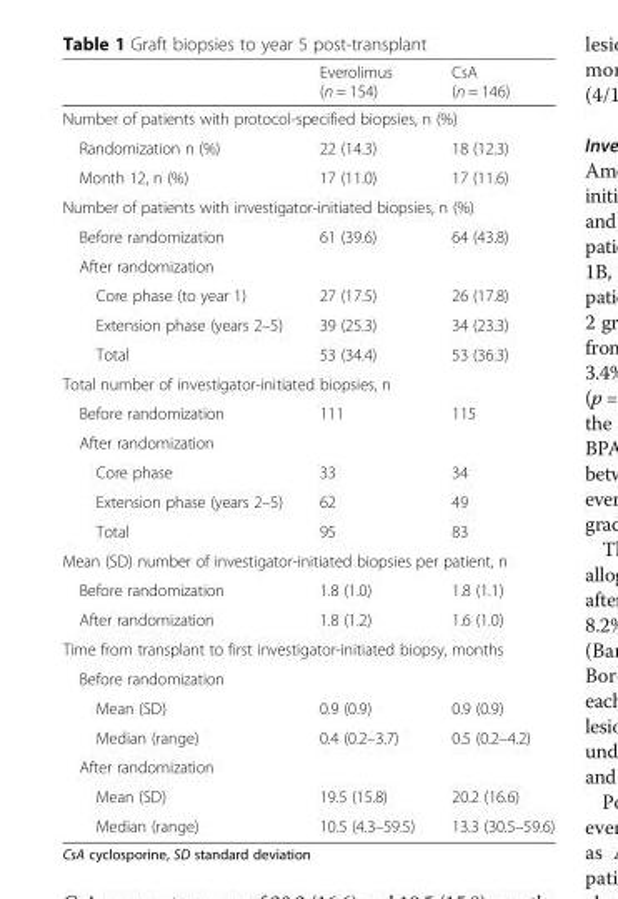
<table><thead><tr><td></td><td>Everolimus (n = 154)</td><td>CsA (n = 146)</td></tr></thead><tbody><tr><td colspan="3">Number of patients with protocol-specified biopsies, n (%)</td></tr><tr><td>Randomization n (%)</td><td>22 (14.3)</td><td>18 (12.3)</td></tr><tr><td>Month 12, n (%)</td><td>17 (11.0)</td><td>17 (11.6)</td></tr><tr><td colspan="3">Number of patients with investigator-initiated biopsies, n (%)</td></tr><tr><td>Before randomization</td><td>61 (39.6)</td><td>64 (43.8)</td></tr><tr><td colspan="3">After randomization</td></tr><tr><td>Core phase (to year 1)</td><td>27 (17.5)</td><td>26 (17.8)</td></tr><tr><td>Extension phase (years 2–5)</td><td>39 (25.3)</td><td>34 (23.3)</td></tr><tr><td>Total</td><td>53 (34.4)</td><td>53 (36.3)</td></tr><tr><td colspan="3">Total number of investigator-initiated biopsies, n</td></tr><tr><td>Before randomization</td><td>111</td><td>115</td></tr><tr><td colspan="3">After randomization</td></tr><tr><td>Core phase</td><td>33</td><td>34</td></tr><tr><td>Extension phase (years 2–5)</td><td>62</td><td>49</td></tr><tr><td>Total</td><td>95</td><td>83</td></tr><tr><td colspan="3">Mean (SD) number of investigator-initiated biopsies per patient, n</td></tr><tr><td>Before randomization</td><td>1.8 (1.0)</td><td>1.8 (1.1)</td></tr><tr><td>After randomization</td><td>1.8 (1.2)</td><td>1.6 (1.0)</td></tr><tr><td colspan="3">Time from transplant to first investigator-initiated biopsy, months</td></tr><tr><td colspan="3">Before randomization</td></tr><tr><td>Mean (SD)</td><td>0.9 (0.9)</td><td>0.9 (0.9)</td></tr><tr><td>Median (range)</td><td>0.4 (0.2–3.7)</td><td>0.5 (0.2–4.2)</td></tr><tr><td colspan="3">After randomization</td></tr><tr><td>Mean (SD)</td><td>19.5 (15.8)</td><td>20.2 (16.6)</td></tr><tr><td>Median (range)</td><td>10.5 (4.3–59.5)</td><td>13.3 (30.5–59.6)</td></tr></tbody></table>